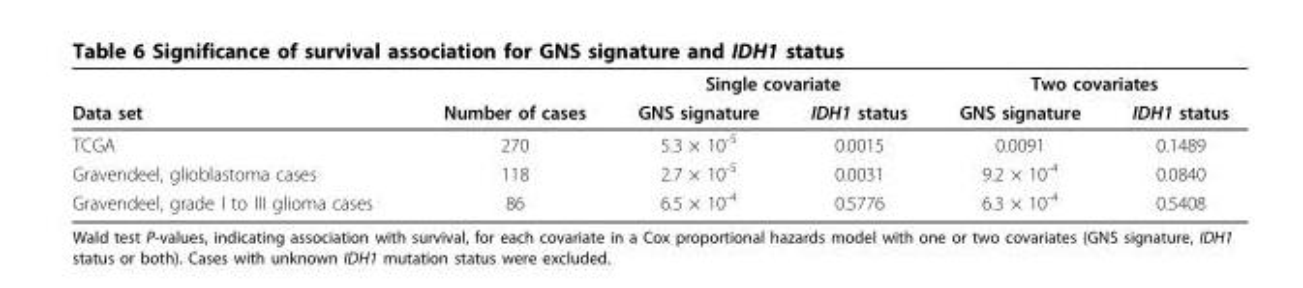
<table><thead><tr><td rowspan="2">Data set</td><td rowspan="2">Number of cases</td><td colspan="2">Single covariate</td><td colspan="2">Two covariates</td></tr><tr><td>GNS signature</td><td>IDH1 status</td><td>GNS signature</td><td>IDH1 status</td></tr></thead><tbody><tr><td>TCGA</td><td>270</td><td>5.3 × 10<sup>-5</sup></td><td>0.0015</td><td>0.0091</td><td>0.1489</td></tr><tr><td>Gravendeel, glioblastoma cases</td><td>118</td><td>2.7 × 10<sup>-5</sup></td><td>0.0031</td><td>9.2 × 10<sup>-4</sup></td><td>0.0840</td></tr><tr><td>Gravendeel, grade I to III glioma cases</td><td>86</td><td>6.5 × 10<sup>-4</sup></td><td>0.5776</td><td>6.3 × 10<sup>-4</sup></td><td>0.5408</td></tr></tbody></table>